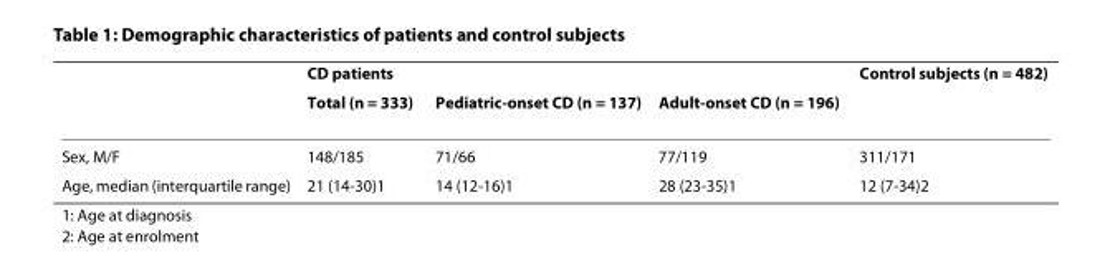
<table><thead><tr><td rowspan="2"></td><td colspan="3">CD patients</td><td rowspan="2">Control subjects (n = 482)</td></tr><tr><td>Total (n = 333)</td><td>Pediatric-onset CD (n = 137)</td><td>Adult-onset CD (n = 196)</td></tr></thead><tbody><tr><td>Sex, M/F</td><td>148/185</td><td>71/66</td><td>77/119</td><td>311/171</td></tr><tr><td>Age, median (interquartile range)</td><td>21 (14-30)1</td><td>14 (12-16)1</td><td>28 (23-35)1</td><td>12 (7-34)2</td></tr></tbody></table>